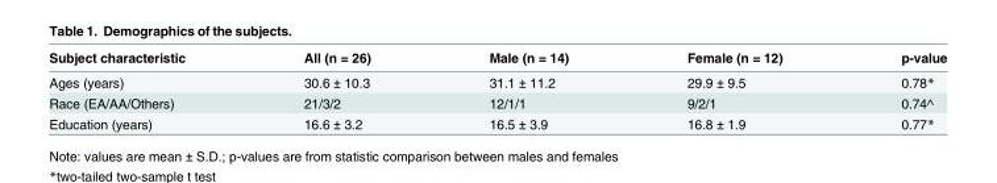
<table><thead><tr><td>Subject characteristic</td><td>All (n = 26)</td><td>Male (n = 14)</td><td>Female (n = 12)</td><td>p-value</td></tr></thead><tbody><tr><td>Ages (years)</td><td>30.6 ± 10.3</td><td>31.1 ± 11.2</td><td>29.9 ± 9.5</td><td>0.78*</td></tr><tr><td>Race (EA/AA/Others)</td><td>21/3/2</td><td>12/1/1</td><td>9/2/1</td><td>0.74^</td></tr><tr><td>Education (years)</td><td>16.6 ± 3.2</td><td>16.5 ± 3.9</td><td>16.8 ± 1.9</td><td>0.77*</td></tr></tbody></table>